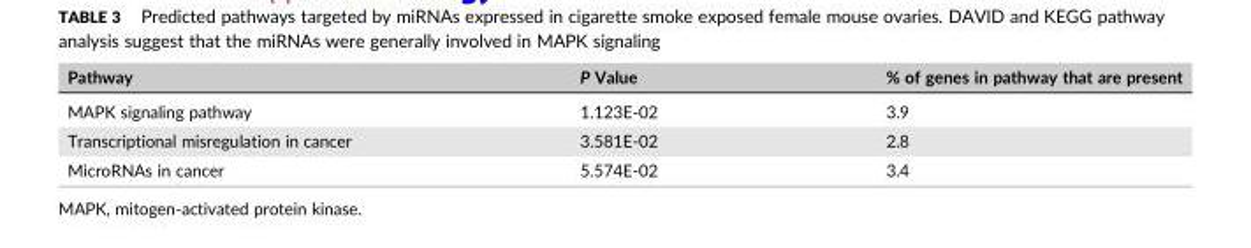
<table><thead><tr><td>Pathway</td><td>P Value</td><td>% of genes in pathway that are present</td></tr></thead><tbody><tr><td>MAPK signaling pathway</td><td>1.123E‐02</td><td>3.9</td></tr><tr><td>Transcriptional misregulation in cancer</td><td>3.581E‐02</td><td>2.8</td></tr><tr><td>MicroRNAs in cancer</td><td>5.574E‐02</td><td>3.4</td></tr></tbody></table>